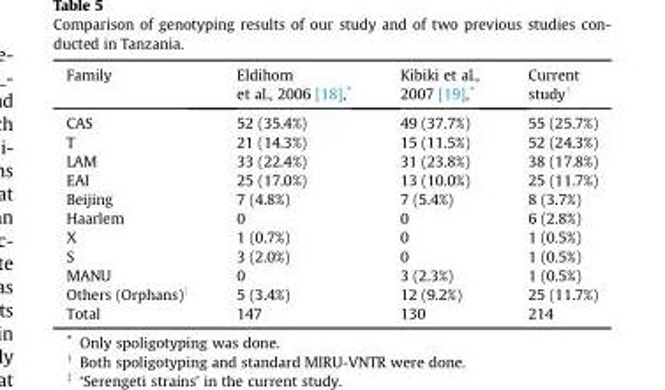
<table><thead><tr><td>Family</td><td>Eldihom et al., 2006 [18],*</td><td>Kibiki et al., 2007 [19],*</td><td>Current study†</td></tr></thead><tbody><tr><td>CAS</td><td>52 (35.4%)</td><td>49 (37.7%)</td><td>55 (25.7%)</td></tr><tr><td>T</td><td>21 (14.3%)</td><td>15 (11.5%)</td><td>52 (24.3%)</td></tr><tr><td>LAM</td><td>33 (22.4%)</td><td>31 (23.8%)</td><td>38 (17.8%)</td></tr><tr><td>EAI</td><td>25 (17.0%)</td><td>13 (10.0%)</td><td>25 (11.7%)</td></tr><tr><td>Beijing</td><td>7 (4.8%)</td><td>7 (5.4%)</td><td>8 (3.7%)</td></tr><tr><td>Haarlem</td><td>0</td><td>0</td><td>6 (2.8%)</td></tr><tr><td>X</td><td>1 (0.7%)</td><td>0</td><td>1 (0.5%)</td></tr><tr><td>S</td><td>3 (2.0%)</td><td>0</td><td>1 (0.5%)</td></tr><tr><td>MANU</td><td>0</td><td>3 (2.3%)</td><td>1 (0.5%)</td></tr><tr><td>Others (Orphans)‡</td><td>5 (3.4%)</td><td>12 (9.2%)</td><td>25 (11.7%)</td></tr><tr><td>Total</td><td>147</td><td>130</td><td>214</td></tr></tbody></table>